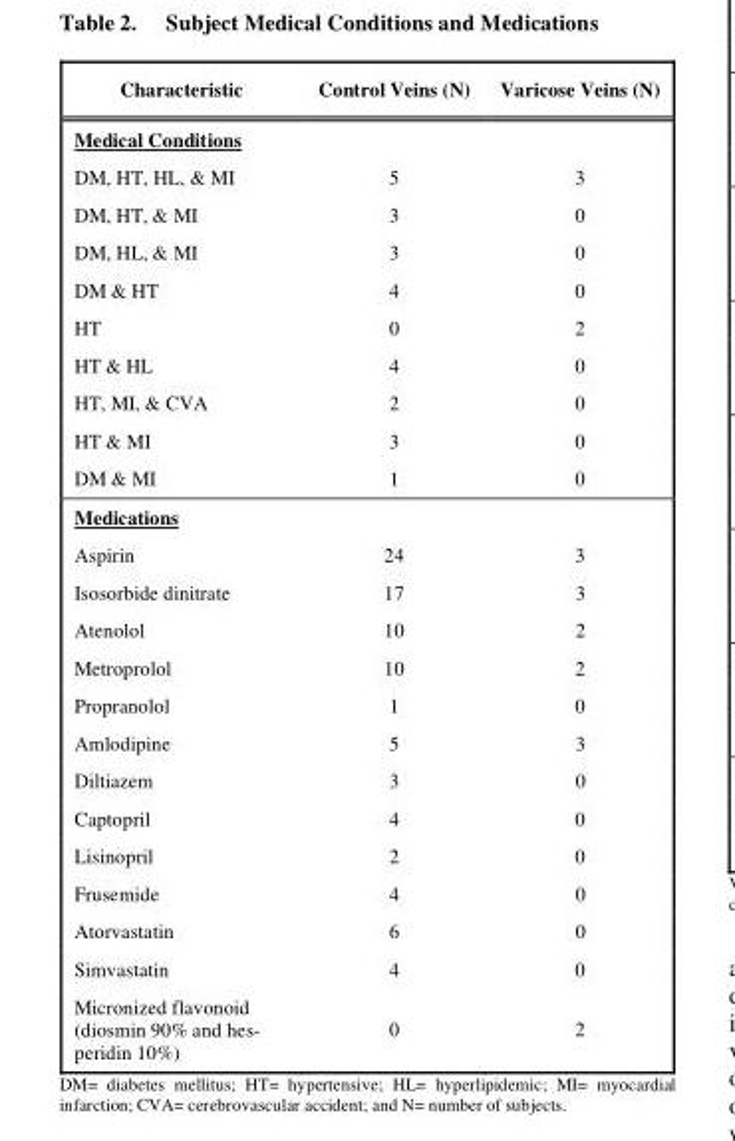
<table><thead><tr><td>Characteristic</td><td>Control Veins (N)</td><td>Varicose Veins (N)</td></tr></thead><tbody><tr><td colspan="3">Medical Conditions</td></tr><tr><td>DM, HT, HL, &amp; MI</td><td>5</td><td>3</td></tr><tr><td>DM, HT, &amp; MI</td><td>3</td><td>0</td></tr><tr><td>DM, HL, &amp; MI</td><td>3</td><td>0</td></tr><tr><td>DM &amp; HT</td><td>4</td><td>0</td></tr><tr><td>HT</td><td>0</td><td>2</td></tr><tr><td>HT &amp; HL</td><td>4</td><td>0</td></tr><tr><td>HT, MI, &amp; CVA</td><td>2</td><td>0</td></tr><tr><td>HT &amp; MI</td><td>3</td><td>0</td></tr><tr><td>DM &amp; MI</td><td>1</td><td>0</td></tr><tr><td colspan="3">Medications</td></tr><tr><td>Aspirin</td><td>24</td><td>3</td></tr><tr><td>Isosorbide dinitrate</td><td>17</td><td>3</td></tr><tr><td>Atenolol</td><td>10</td><td>2</td></tr><tr><td>Metroprolol</td><td>10</td><td>2</td></tr><tr><td>Propranolol</td><td>1</td><td>0</td></tr><tr><td>Amlodipine</td><td>5</td><td>3</td></tr><tr><td>Diltiazem</td><td>3</td><td>0</td></tr><tr><td>Captopril</td><td>4</td><td>0</td></tr><tr><td>Lisinopril</td><td>2</td><td>0</td></tr><tr><td>Frusemide</td><td>4</td><td>0</td></tr><tr><td>Atorvastatin</td><td>6</td><td>0</td></tr><tr><td>Simvastatin</td><td>4</td><td>0</td></tr><tr><td>Micronized flavonoid (diosmin 90% and hes- peridin 10%)</td><td>0</td><td>2</td></tr></tbody></table>